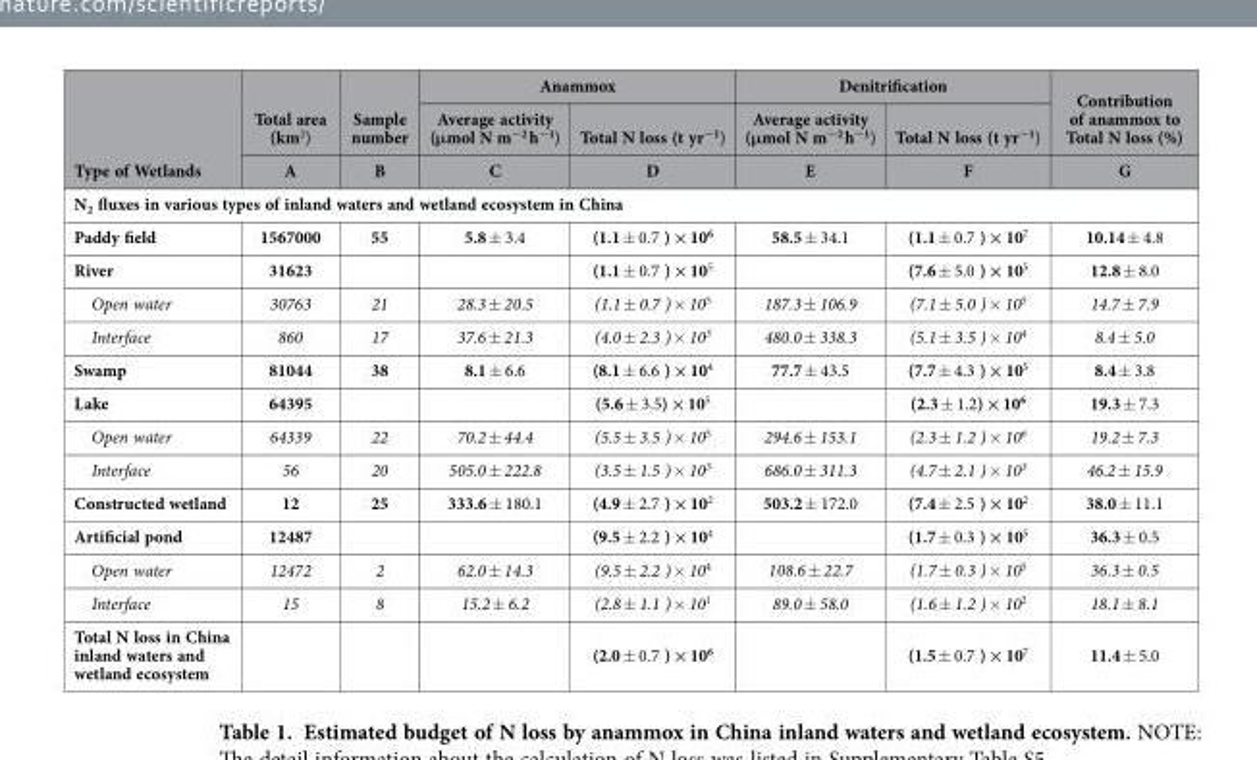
<table><thead><tr><td rowspan="3">Type of Wetlands</td><td rowspan="3">Total area (km<sup>2</sup>) A</td><td rowspan="3">Sample number B</td><td colspan="2">Anammox</td><td colspan="2">Denitrification</td><td rowspan="3">Contribution of anammox to Total N loss (%) G</td></tr><tr><td rowspan="2">Average activity (μmol N m<sup>−2</sup> h<sup>−1</sup>) C</td><td rowspan="2">Total N loss (t yr<sup>−1</sup>) D</td><td rowspan="2">Average activity (μmol N m<sup>−2</sup> h<sup>−1</sup>) E</td><td rowspan="2">Total N loss (t yr<sup>−1</sup>) F</td></tr><tr></tr></thead><tbody><tr><td colspan="8">N<sub>2</sub> fluxes in various types of inland waters and wetland ecosystem in China</td></tr><tr><td>Paddy field</td><td>1567000</td><td>55</td><td>5.8 ± 3.4</td><td>(1.1 ± 0.7 ) × 10<sup>6</sup></td><td>58.5 ± 34.1</td><td>(1.1 ± 0.7 ) × 10<sup>7</sup></td><td>10.14 ± 4.8</td></tr><tr><td>River</td><td>31623</td><td></td><td></td><td>(1.1 ± 0.7 ) × 10<sup>5</sup></td><td></td><td>(7.6 ± 5.0 ) × 10<sup>5</sup></td><td>12.8 ± 8.0</td></tr><tr><td>Open water</td><td>30763</td><td>21</td><td>28.3 ± 20.5</td><td>(1.1 ± 0.7 ) × 10<sup>5</sup></td><td>187.3 ± 106.9</td><td>(7.1 ± 5.0 ) × 10<sup>5</sup></td><td>14.7 ± 7.9</td></tr><tr><td>Interface</td><td>860</td><td>17</td><td>37.6 ± 21.3</td><td>(4.0 ± 2.3 ) × 10<sup>3</sup></td><td>480.0 ± 338.3</td><td>(5.1 ± 3.5 ) × 10<sup>4</sup></td><td>8.4 ± 5.0</td></tr><tr><td>Swamp</td><td>81044</td><td>38</td><td>8.1 ± 6.6</td><td>(8.1 ± 6.6 ) × 10<sup>4</sup></td><td>77.7 ± 43.5</td><td>(7.7 ± 4.3 ) × 10<sup>5</sup></td><td>8.4 ± 3.8</td></tr><tr><td>Lake</td><td>64395</td><td></td><td></td><td>(5.6 ± 3.5) × 10<sup>5</sup></td><td></td><td>(2.3 ± 1.2) × 10<sup>6</sup></td><td>19.3 ± 7.3</td></tr><tr><td>Open water</td><td>64339</td><td>22</td><td>70.2 ± 44.4</td><td>(5.5 ± 3.5 ) × 10<sup>5</sup></td><td>294.6 ± 153.1</td><td>(2.3 ± 1.2 ) × 10<sup>6</sup></td><td>19.2 ± 7.3</td></tr><tr><td>Interface</td><td>56</td><td>20</td><td>505.0 ± 222.8</td><td>(3.5 ± 1.5 ) × 10<sup>3</sup></td><td>686.0 ± 311.3</td><td>(4.7 ± 2.1 ) × 10<sup>3</sup></td><td>46.2 ± 15.9</td></tr><tr><td>Constructed wetland</td><td>12</td><td>25</td><td>333.6 ± 180.1</td><td>(4.9 ± 2.7 ) × 10<sup>2</sup></td><td>503.2 ± 172.0</td><td>(7.4 ± 2.5 ) × 10<sup>2</sup></td><td>38.0 ± 11.1</td></tr><tr><td>Artificial pond</td><td>12487</td><td></td><td></td><td>(9.5 ± 2.2 ) × 10<sup>4</sup></td><td></td><td>(1.7 ± 0.3 ) × 10<sup>5</sup></td><td>36.3 ± 0.5</td></tr><tr><td>Open water</td><td>12472</td><td>2</td><td>62.0 ± 14.3</td><td>(9.5 ± 2.2 ) × 10<sup>4</sup></td><td>108.6 ± 22.7</td><td>(1.7 ± 0.3 ) × 10<sup>5</sup></td><td>36.3 ± 0.5</td></tr><tr><td>Interface</td><td>15</td><td>8</td><td>15.2 ± 6.2</td><td>(2.8 ± 1.1 ) × 10<sup>1</sup></td><td>89.0 ± 58.0</td><td>(1.6 ± 1.2 ) × 10<sup>2</sup></td><td>18.1 ± 8.1</td></tr><tr><td>Total N loss in China inland waters and wetland ecosystem</td><td></td><td></td><td></td><td>(2.0 ± 0.7 ) × 10<sup>6</sup></td><td></td><td>(1.5 ± 0.7 ) × 10<sup>7</sup></td><td>11.4 ± 5.0</td></tr></tbody></table>